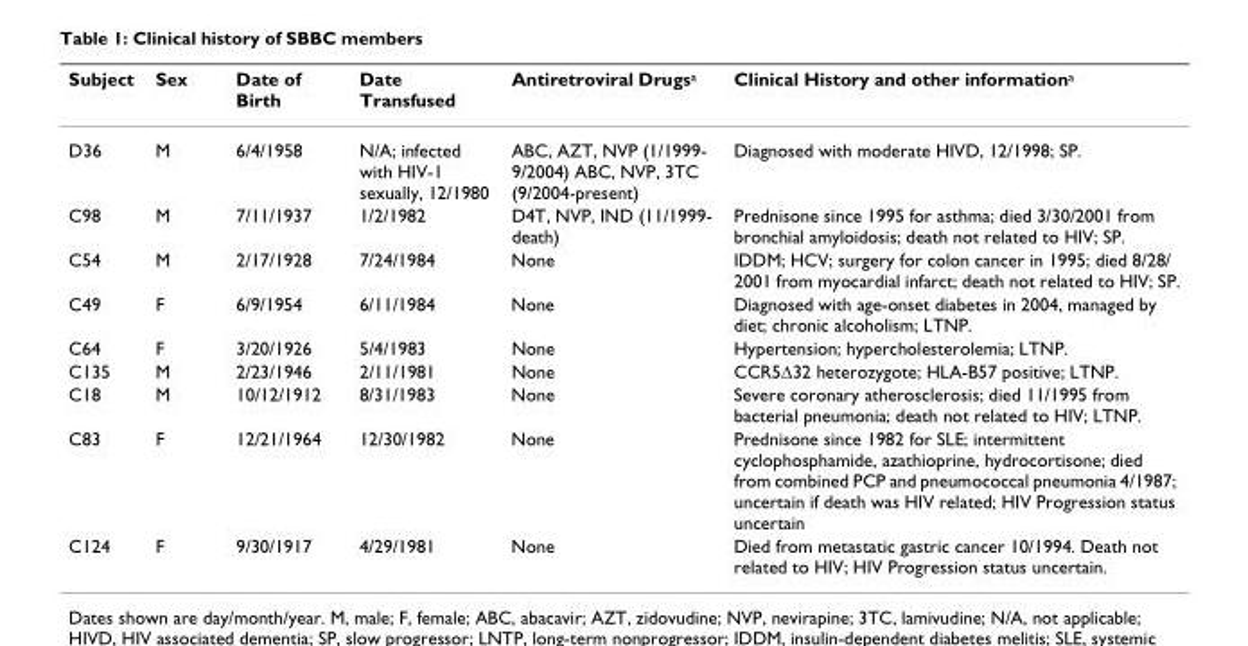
<table><thead><tr><td>Subject</td><td>Sex</td><td>Date of Birth</td><td>Date Transfused</td><td>Antiretroviral Drugs<sup>a</sup></td><td>Clinical History and other information<sup>a</sup></td></tr></thead><tbody><tr><td>D36</td><td>M</td><td>6/4/1958</td><td>N/A; infected with HIV-1 sexually, 12/1980</td><td>ABC, AZT, NVP (1/1999- 9/2004) ABC, NVP, 3TC (9/2004-present)</td><td>Diagnosed with moderate HIVD, 12/1998; SP.</td></tr><tr><td>C98</td><td>M</td><td>7/11/1937</td><td>1/2/1982</td><td>D4T, NVP, IND (11/1999- death)</td><td>Prednisone since 1995 for asthma; died 3/30/2001 from bronchial amyloidosis; death not related to HIV; SP.</td></tr><tr><td>C54</td><td>M</td><td>2/17/1928</td><td>7/24/1984</td><td>None</td><td>IDDM; HCV; surgery for colon cancer in 1995; died 8/28/ 2001 from myocardial infarct; death not related to HIV; SP.</td></tr><tr><td>C49</td><td>F</td><td>6/9/1954</td><td>6/11/1984</td><td>None</td><td>Diagnosed with age-onset diabetes in 2004, managed by diet; chronic alcoholism; LTNP.</td></tr><tr><td>C64</td><td>F</td><td>3/20/1926</td><td>5/4/1983</td><td>None</td><td>Hypertension; hypercholesterolemia; LTNP.</td></tr><tr><td>C135</td><td>M</td><td>2/23/1946</td><td>2/11/1981</td><td>None</td><td>CCR5∆32 heterozygote; HLA-B57 positive; LTNP.</td></tr><tr><td>C18</td><td>M</td><td>10/12/1912</td><td>8/31/1983</td><td>None</td><td>Severe coronary atherosclerosis; died 11/1995 from bacterial pneumonia; death not related to HIV; LTNP.</td></tr><tr><td>C83</td><td>F</td><td>12/21/1964</td><td>12/30/1982</td><td>None</td><td>Prednisone since 1982 for SLE; intermittent cyclophosphamide, azathioprine, hydrocortisone; died from combined PCP and pneumococcal pneumonia 4/1987; uncertain if death was HIV related; HIV Progression status uncertain</td></tr><tr><td>C124</td><td>F</td><td>9/30/1917</td><td>4/29/1981</td><td>None</td><td>Died from metastatic gastric cancer 10/1994. Death not related to HIV; HIV Progression status uncertain.</td></tr></tbody></table>